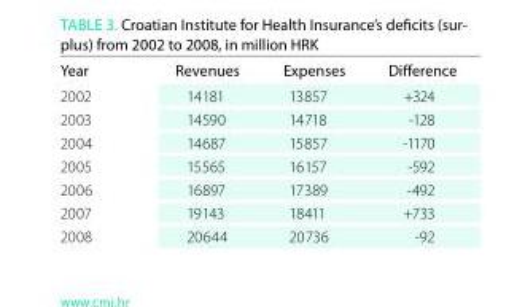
<table><thead><tr><td>year</td><td>revenues</td><td>expenses</td><td>Difference</td></tr></thead><tbody><tr><td>2002</td><td>14 181</td><td>13 857</td><td>+324</td></tr><tr><td>2003</td><td>14 590</td><td>14 718</td><td>-128</td></tr><tr><td>2004</td><td>14 687</td><td>15 857</td><td>-1170</td></tr><tr><td>2005</td><td>15 565</td><td>16 157</td><td>-592</td></tr><tr><td>2006</td><td>16 897</td><td>17 389</td><td>-492</td></tr><tr><td>2007</td><td>19 143</td><td>18 411</td><td>+733</td></tr><tr><td>2008</td><td>20 644</td><td>20 736</td><td>-92</td></tr></tbody></table>